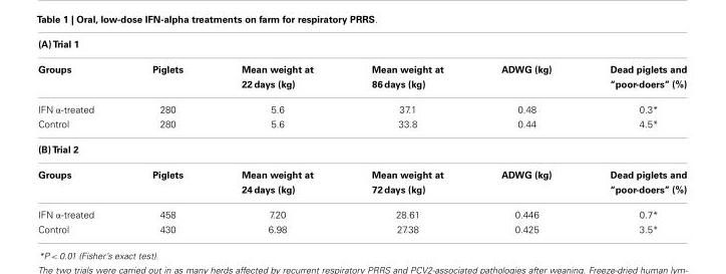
<table><thead><tr><td colspan="6">(A)Trial 1</td></tr><tr><td>Groups</td><td>Piglets</td><td>Mean weight at 22 days (kg)</td><td>Mean weight at 86 days (kg)</td><td>ADWG (kg)</td><td>Dead piglets and “poor-doers” (%)</td></tr></thead><tbody><tr><td>IFN α-treated</td><td>280</td><td>5.6</td><td>37.1</td><td>0.48</td><td>0.3*</td></tr><tr><td>Control</td><td>280</td><td>5.6</td><td>33.8</td><td>0.44</td><td>4.5*</td></tr><tr><td colspan="6">(B)Trial 2</td></tr><tr><td>Groups</td><td>Piglets</td><td>Mean weight at 24 days (kg)</td><td>Mean weight at 72 days (kg)</td><td>ADWG (kg)</td><td>Dead piglets and “poor-doers” (%)</td></tr><tr><td>IFN α-treated</td><td>458</td><td>7.20</td><td>28.61</td><td>0.446</td><td>0.7*</td></tr><tr><td>Control</td><td>430</td><td>6.98</td><td>27.38</td><td>0.425</td><td>3.5*</td></tr></tbody></table>